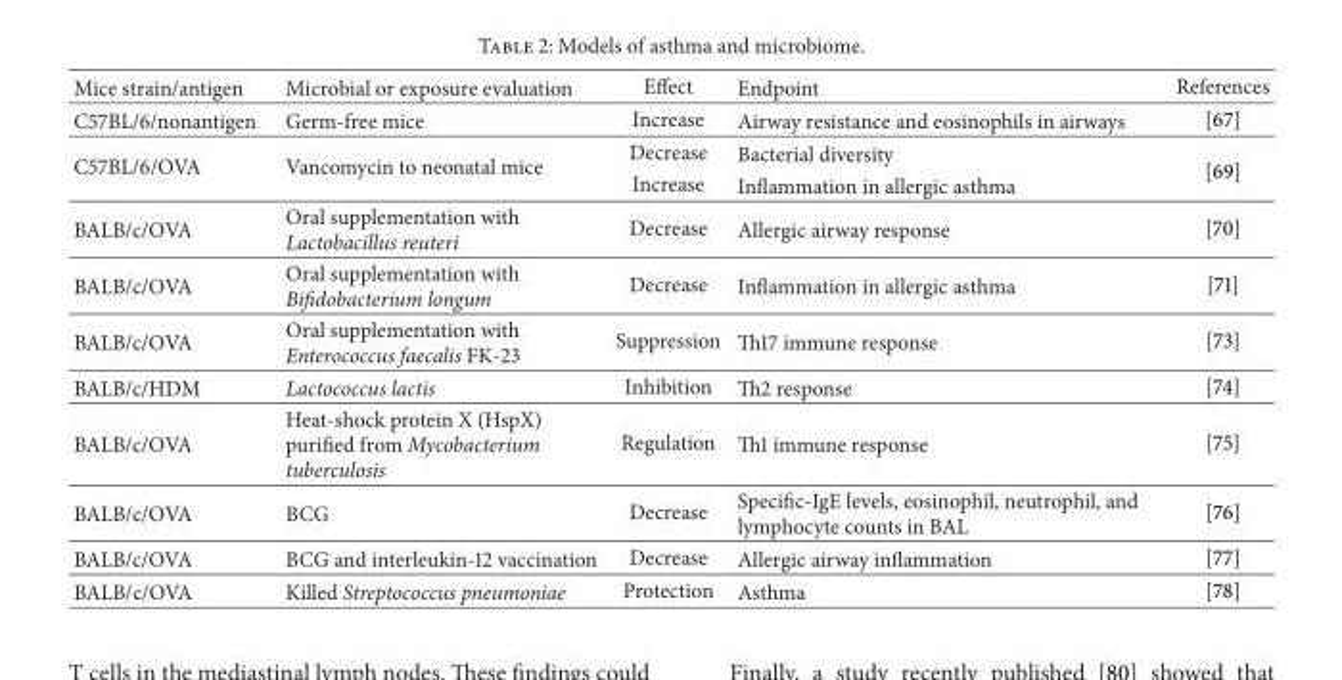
<table><thead><tr><td>Mice strain/antigen</td><td>Microbial or exposure evaluation</td><td>Effect</td><td>Endpoint</td><td>References</td></tr></thead><tbody><tr><td>C57BL/6/nonantigen</td><td>Germ-free mice</td><td>Increase</td><td>Airway resistance and eosinophils in airways</td><td>[67]</td></tr><tr><td rowspan="2">C57BL/6/OVA</td><td rowspan="2">Vancomycin to neonatal mice</td><td>Decrease</td><td>Bacterial diversity</td><td rowspan="2">[69]</td></tr><tr><td>Increase</td><td>Inflammation in allergic asthma</td></tr><tr><td>BALB/c/OVA</td><td>Oral supplementation with Lactobacillus reuteri</td><td>Decrease</td><td>Allergic airway response</td><td>[70]</td></tr><tr><td>BALB/c/OVA</td><td>Oral supplementation with Bifidobacterium longum</td><td>Decrease</td><td>Inflammation in allergic asthma</td><td>[71]</td></tr><tr><td>BALB/c/OVA</td><td>Oral supplementation with Enterococcus faecalis FK-23</td><td>Suppression</td><td>Th17 immune response</td><td>[73]</td></tr><tr><td>BALB/c/HDM</td><td>Lactococcus lactis</td><td>Inhibition</td><td>Th2 response</td><td>[74]</td></tr><tr><td>BALB/c/OVA</td><td>Heat-shock protein X (HspX) purified from Mycobacterium tuberculosis</td><td>Regulation</td><td>Th1 immune response</td><td>[75]</td></tr><tr><td>BALB/c/OVA</td><td>BCG</td><td>Decrease</td><td>Specific-IgE levels, eosinophil, neutrophil, and lymphocyte counts in BAL</td><td>[76]</td></tr><tr><td>BALB/c/OVA</td><td>BCG and interleukin-12 vaccination</td><td>Decrease</td><td>Allergic airway inflammation</td><td>[77]</td></tr><tr><td>BALB/c/OVA</td><td>Killed Streptococcus pneumoniae</td><td>Protection</td><td>Asthma</td><td>[78]</td></tr></tbody></table>